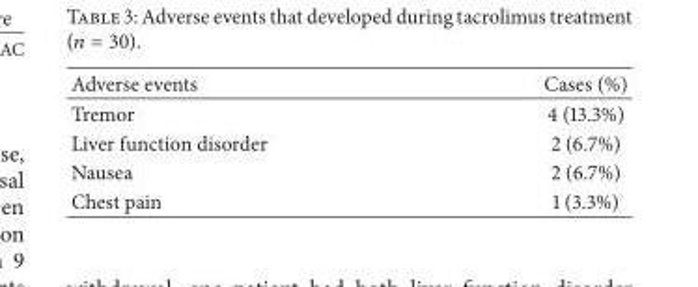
<table><thead><tr><td>Adverse events</td><td>Cases (%)</td></tr></thead><tbody><tr><td>Tremor</td><td>4 (13.3%)</td></tr><tr><td>Liver function disorder</td><td>2 (6.7%)</td></tr><tr><td>Nausea</td><td>2 (6.7%)</td></tr><tr><td>Chest pain</td><td>1 (3.3%)</td></tr></tbody></table>